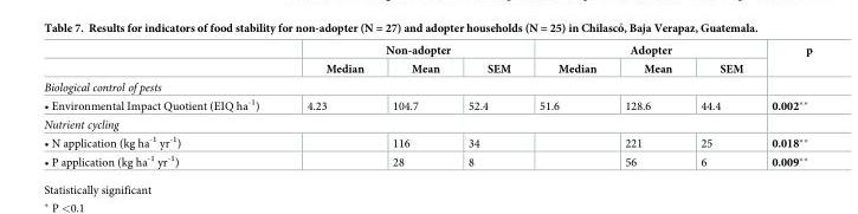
<table><thead><tr><td rowspan="2"></td><td colspan="3">Non-adopter</td><td colspan="3">Adopter</td><td rowspan="2">p</td></tr><tr><td>Median</td><td>Mean</td><td>SEM</td><td>Median</td><td>Mean</td><td>SEM</td></tr></thead><tbody><tr><td colspan="8">Biological control of pests</td></tr><tr><td>• Environmental Impact Quotient (EIQ ha<sup>-1</sup>)</td><td>4.23</td><td>104.7</td><td>52.4</td><td>51.6</td><td>128.6</td><td>44.4</td><td>0.002**</td></tr><tr><td colspan="8">Nutrient cycling</td></tr><tr><td>• N application (kg ha<sup>-1</sup> yr<sup>-1</sup>)</td><td></td><td>116</td><td>34</td><td></td><td>221</td><td>25</td><td>0.018**</td></tr><tr><td>• P application (kg ha<sup>-1</sup> yr<sup>-1</sup>)</td><td></td><td>28</td><td>8</td><td></td><td>56</td><td>6</td><td>0.009**</td></tr></tbody></table>